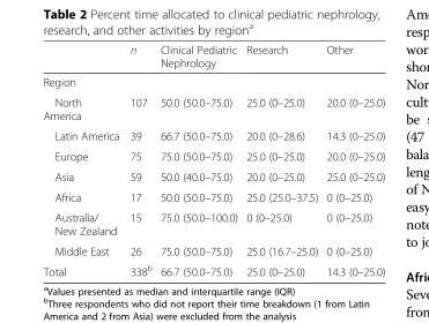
<table><thead><tr><td></td><td>n</td><td>Clinical Pediatric Nephrology</td><td>Research</td><td>Other</td></tr></thead><tbody><tr><td colspan="5">Region</td></tr><tr><td>North America</td><td>107</td><td>50.0 (50.0–75.0)</td><td>25.0 (0–25.0)</td><td>20.0 (0–25.0)</td></tr><tr><td>Latin America</td><td>39</td><td>66.7 (50.0–75.0)</td><td>20.0 (0–28.6)</td><td>14.3 (0–25.0)</td></tr><tr><td>Europe</td><td>75</td><td>75.0 (50.0–75.0)</td><td>25.0 (0–25.0)</td><td>20.0 (0–25.0)</td></tr><tr><td>Asia</td><td>59</td><td>50.0 (40.0–75.0)</td><td>20.0 (0–25.0)</td><td>25.0 (0–25.0)</td></tr><tr><td>Africa</td><td>17</td><td>50.0 (50.0–75.0)</td><td>25.0 (25.0–37.5)</td><td>0 (0–25.0)</td></tr><tr><td>Australia/ New Zealand</td><td>15</td><td>75.0 (50.0–100.0)</td><td>0 (0–25.0)</td><td>0 (0–25.0)</td></tr><tr><td>Middle East</td><td>26</td><td>75.0 (50.0–75.0)</td><td>25.0 (16.7–25.0)</td><td>0 (0–25.0)</td></tr><tr><td>Total</td><td>338<sup>b</sup></td><td>66.7 (50.0–75.0)</td><td>25.0 (0–25.0)</td><td>14.3 (0–25.0)</td></tr></tbody></table>